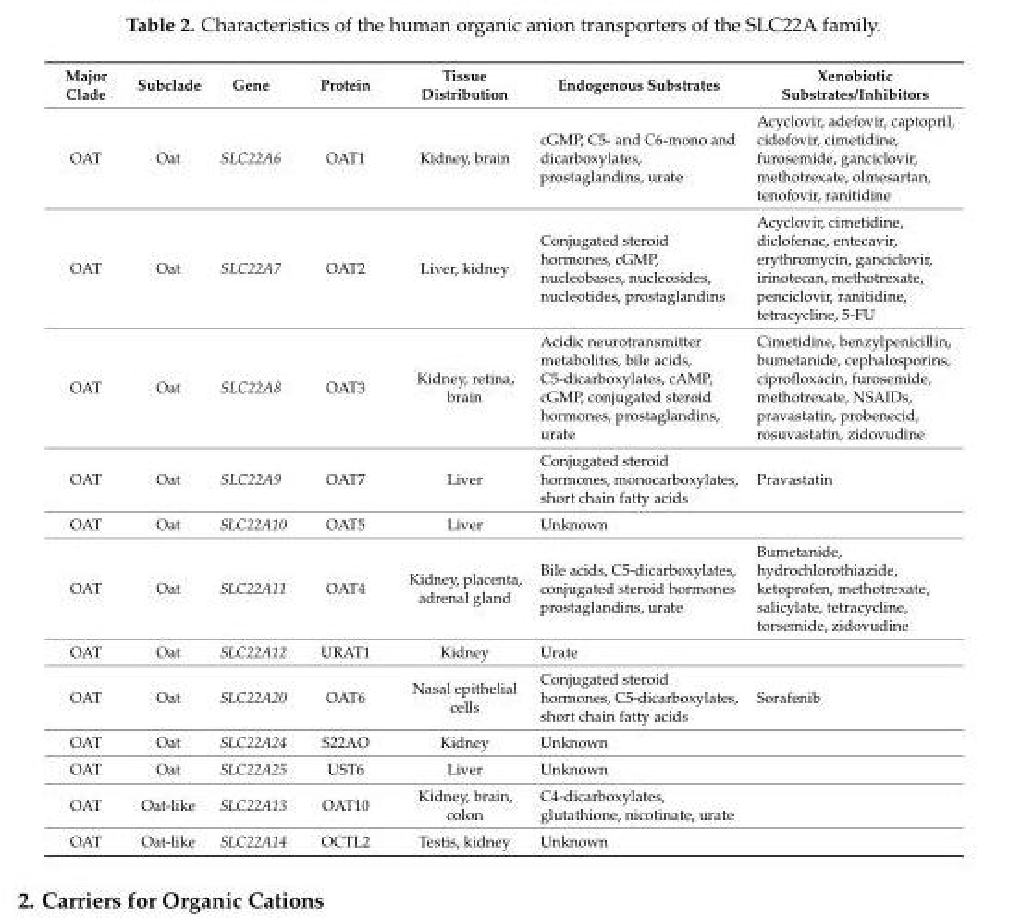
<table><thead><tr><td>Major Clade</td><td>Subclade</td><td>Gene</td><td>Protein</td><td>Tissue Distribution</td><td>Endogenous Substrates</td><td>Xenobiotic Substrates/Inhibitors</td></tr></thead><tbody><tr><td>OAT</td><td>Oat</td><td>SLC22A6</td><td>OAT1</td><td>Kidney, brain</td><td>cGMP, C5- and C6-mono and dicarboxylates, prostaglandins, urate</td><td>Acyclovir, adefovir, captopril, cidofovir, cimetidine, furosemide, ganciclovir, methotrexate, olmesartan, tenofovir, ranitidine</td></tr><tr><td>OAT</td><td>Oat</td><td>SLC22A7</td><td>OAT2</td><td>Liver, kidney</td><td>Conjugated steroid hormones, cGMP, nucleobases, nucleosides, nucleotides, prostaglandins</td><td>Acyclovir, cimetidine, diclofenac, entecavir, erythromycin, ganciclovir, irinotecan, methotrexate, penciclovir, ranitidine, tetracycline, 5-FU</td></tr><tr><td>OAT</td><td>Oat</td><td>SLC22A8</td><td>OAT3</td><td>Kidney, retina, brain</td><td>Acidic neurotransmitter metabolites, bile acids, C5-dicarboxylates, cAMP, cGMP, conjugated steroid hormones, prostaglandins, urate</td><td>Cimetidine, benzylpenicillin, bumetanide, cephalosporins, ciprofloxacin, furosemide, methotrexate, NSAIDs, pravastatin, probenecid, rosuvastatin, zidovudine</td></tr><tr><td>OAT</td><td>Oat</td><td>SLC22A9</td><td>OAT7</td><td>Liver</td><td>Conjugated steroid hormones, monocarboxylates, short chain fatty acids</td><td>Pravastatin</td></tr><tr><td>OAT</td><td>Oat</td><td>SLC22A10</td><td>OAT5</td><td>Liver</td><td>Unknown</td><td></td></tr><tr><td>OAT</td><td>Oat</td><td>SLC22A11</td><td>OAT4</td><td>Kidney, placenta, adrenal gland</td><td>Bile acids, C5-dicarboxylates, conjugated steroid hormones prostaglandins, urate</td><td>Bumetanide, hydrochlorothiazide, ketoprofen, methotrexate, salicylate, tetracycline, torsemide, zidovudine</td></tr><tr><td>OAT</td><td>Oat</td><td>SLC22A12</td><td>URAT1</td><td>Kidney</td><td>Urate</td><td></td></tr><tr><td>OAT</td><td>Oat</td><td>SLC22A20</td><td>OAT6</td><td>Nasal epithelial cells</td><td>Conjugated steroid hormones, C5-dicarboxylates, short chain fatty acids</td><td>Sorafenib</td></tr><tr><td>OAT</td><td>Oat</td><td>SLC22A24</td><td>S22AO</td><td>Kidney</td><td>Unknown</td><td></td></tr><tr><td>OAT</td><td>Oat</td><td>SLC22A25</td><td>UST6</td><td>Liver</td><td>Unknown</td><td></td></tr><tr><td>OAT</td><td>Oat-like</td><td>SLC22A13</td><td>OAT10</td><td>Kidney, brain, colon</td><td>C4-dicarboxylates, glutathione, nicotinate, urate</td><td></td></tr><tr><td>OAT</td><td>Oat-like</td><td>SLC22A14</td><td>OCTL2</td><td>Testis, kidney</td><td>Unknown</td><td></td></tr></tbody></table>